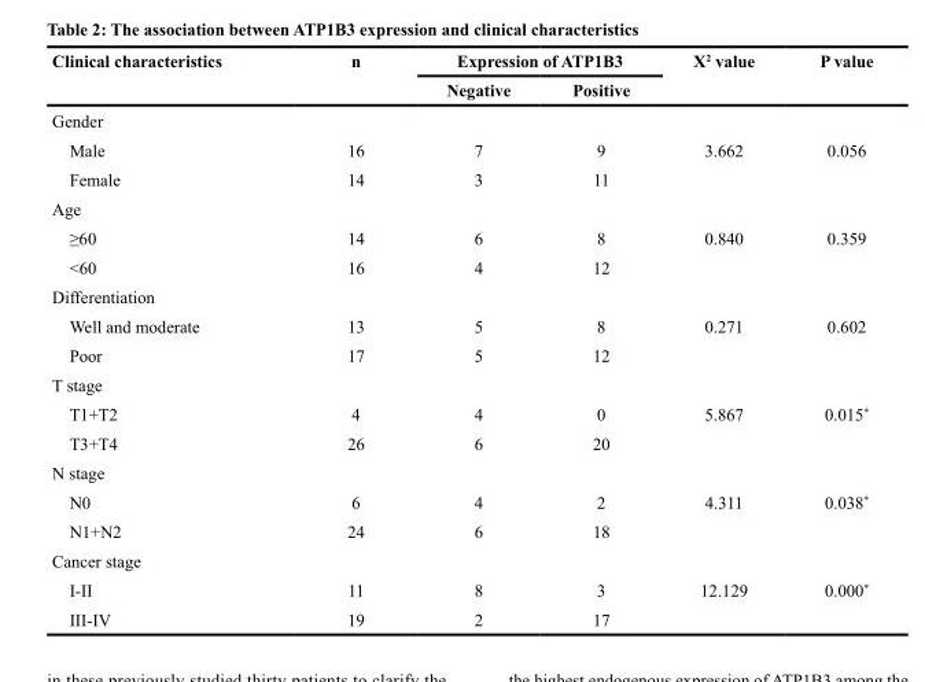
<table><thead><tr><td rowspan="2">Clinical characteristics</td><td rowspan="2">n</td><td colspan="2">Expression of ATP1B3</td><td rowspan="2">X<sup>2</sup> value</td><td rowspan="2">P value</td></tr><tr><td>Negative</td><td>Positive</td></tr></thead><tbody><tr><td colspan="6">Gender</td></tr><tr><td>Male</td><td>16</td><td>7</td><td>9</td><td>3.662</td><td>0.056</td></tr><tr><td>Female</td><td>14</td><td>3</td><td>11</td><td></td><td></td></tr><tr><td colspan="6">Age</td></tr><tr><td>≥60</td><td>14</td><td>6</td><td>8</td><td>0.840</td><td>0.359</td></tr><tr><td>&lt;60</td><td>16</td><td>4</td><td>12</td><td></td><td></td></tr><tr><td colspan="6">Differentiation</td></tr><tr><td>Well and moderate</td><td>13</td><td>5</td><td>8</td><td>0.271</td><td>0.602</td></tr><tr><td>Poor</td><td>17</td><td>5</td><td>12</td><td></td><td></td></tr><tr><td colspan="6">T stage</td></tr><tr><td>T1+T2</td><td>4</td><td>4</td><td>0</td><td>5.867</td><td>0.015*</td></tr><tr><td>T3+T4</td><td>26</td><td>6</td><td>20</td><td></td><td></td></tr><tr><td colspan="6">N stage</td></tr><tr><td>N0</td><td>6</td><td>4</td><td>2</td><td>4.311</td><td>0.038*</td></tr><tr><td>N1+N2</td><td>24</td><td>6</td><td>18</td><td></td><td></td></tr><tr><td colspan="6">Cancer stage</td></tr><tr><td>I-II</td><td>11</td><td>8</td><td>3</td><td>12.129</td><td>0.000*</td></tr><tr><td>III-IV</td><td>19</td><td>2</td><td>17</td><td></td><td></td></tr></tbody></table>